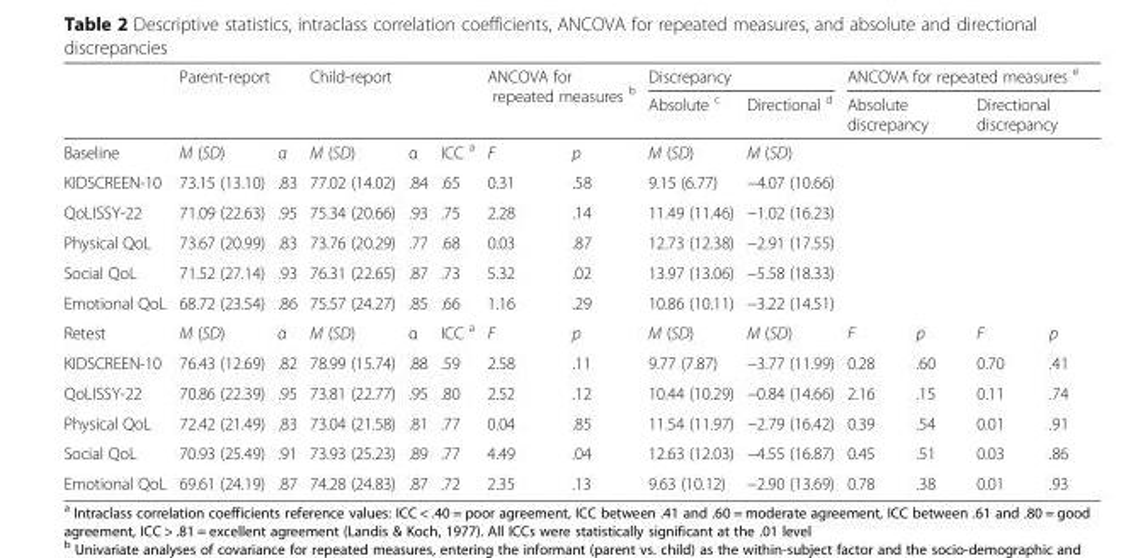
<table><thead><tr><td rowspan="3">Baseline</td><td rowspan="2" colspan="2">Parent-report</td><td rowspan="2" colspan="2">Child-report</td><td rowspan="3">ICC <sup>a</sup></td><td rowspan="2" colspan="2">ANCOVA for repeated measures <sup>b</sup></td><td colspan="2">Discrepancy</td><td colspan="4">ANCOVA for repeated measures <sup>e</sup></td></tr><tr><td rowspan="2">Absolute <sup>c</sup> M (SD)</td><td rowspan="2">Directional <sup>d</sup> M (SD)</td><td colspan="2">Absolute discrepancy</td><td colspan="2">Directional discrepancy</td></tr><tr><td>M (SD)</td><td>α</td><td>M (SD)</td><td>α</td><td>F</td><td>p</td><td></td><td></td><td></td><td></td></tr></thead><tbody><tr><td>KIDSCREEN-10</td><td>73.15 (13.10)</td><td>.83</td><td>77.02 (14.02)</td><td>.84</td><td>.65</td><td>0.31</td><td>.58</td><td>9.15 (6.77)</td><td>−4.07 (10.66)</td><td></td><td></td><td></td><td></td></tr><tr><td>QoLISSY-22</td><td>71.09 (22.63)</td><td>.95</td><td>75.34 (20.66)</td><td>.93</td><td>.75</td><td>2.28</td><td>.14</td><td>11.49 (11.46)</td><td>−1.02 (16.23)</td><td></td><td></td><td></td><td></td></tr><tr><td>Physical QoL</td><td>73.67 (20.99)</td><td>.83</td><td>73.76 (20.29)</td><td>.77</td><td>.68</td><td>0.03</td><td>.87</td><td>12.73 (12.38)</td><td>−2.91 (17.55)</td><td></td><td></td><td></td><td></td></tr><tr><td>Social QoL</td><td>71.52 (27.14)</td><td>.93</td><td>76.31 (22.65)</td><td>.87</td><td>.73</td><td>5.32</td><td>.02</td><td>13.97 (13.06)</td><td>−5.58 (18.33)</td><td></td><td></td><td></td><td></td></tr><tr><td>Emotional QoL</td><td>68.72 (23.54)</td><td>.86</td><td>75.57 (24.27)</td><td>.85</td><td>.66</td><td>1.16</td><td>.29</td><td>10.86 (10.11)</td><td>−3.22 (14.51)</td><td></td><td></td><td></td><td></td></tr><tr><td>Retest</td><td>M (SD)</td><td>α</td><td>M (SD)</td><td>α</td><td>ICC <sup>a</sup></td><td>F</td><td>p</td><td>M (SD)</td><td>M (SD)</td><td>F</td><td>p</td><td>F</td><td>p</td></tr><tr><td>KIDSCREEN-10</td><td>76.43 (12.69)</td><td>.82</td><td>78.99 (15.74)</td><td>.88</td><td>.59</td><td>2.58</td><td>.11</td><td>9.77 (7.87)</td><td>−3.77 (11.99)</td><td>0.28</td><td>.60</td><td>0.70</td><td>.41</td></tr><tr><td>QoLISSY-22</td><td>70.86 (22.39)</td><td>.95</td><td>73.81 (22.77)</td><td>.95</td><td>.80</td><td>2.52</td><td>.12</td><td>10.44 (10.29)</td><td>−0.84 (14.66)</td><td>2.16</td><td>.15</td><td>0.11</td><td>.74</td></tr><tr><td>Physical QoL</td><td>72.42 (21.49)</td><td>.83</td><td>73.04 (21.58)</td><td>.81</td><td>.77</td><td>0.04</td><td>.85</td><td>11.54 (11.97)</td><td>−2.79 (16.42)</td><td>0.39</td><td>.54</td><td>0.01</td><td>.91</td></tr><tr><td>Social QoL</td><td>70.93 (25.49)</td><td>.91</td><td>73.93 (25.23)</td><td>.89</td><td>.77</td><td>4.49</td><td>.04</td><td>12.63 (12.03)</td><td>−4.55 (16.87)</td><td>0.45</td><td>.51</td><td>0.03</td><td>.86</td></tr><tr><td>Emotional QoL</td><td>69.61 (24.19)</td><td>.87</td><td>74.28 (24.83)</td><td>.87</td><td>.72</td><td>2.35</td><td>.13</td><td>9.63 (10.12)</td><td>−2.90 (13.69)</td><td>0.78</td><td>.38</td><td>0.01</td><td>.93</td></tr></tbody></table>